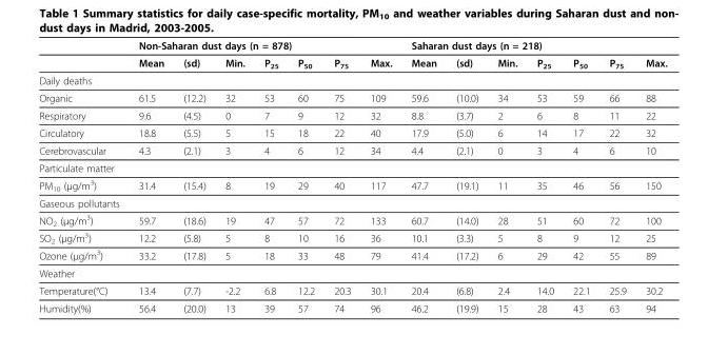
<table><thead><tr><td rowspan="2"></td><td colspan="7">Non-Saharan dust days (n = 878)</td><td colspan="7">Saharan dust days (n = 218)</td></tr><tr><td>Mean</td><td>(sd)</td><td>Min.</td><td>P<sub>25</sub></td><td>P<sub>50</sub></td><td>P<sub>75</sub></td><td>Max.</td><td>Mean</td><td>(sd)</td><td>Min.</td><td>P<sub>25</sub></td><td>P<sub>50</sub></td><td>P<sub>75</sub></td><td>Max.</td></tr></thead><tbody><tr><td colspan="15">Daily deaths</td></tr><tr><td>Organic</td><td>61.5</td><td>(12.2)</td><td>32</td><td>53</td><td>60</td><td>75</td><td>109</td><td>59.6</td><td>(10.0)</td><td>34</td><td>53</td><td>59</td><td>66</td><td>88</td></tr><tr><td>Respiratory</td><td>9.6</td><td>(4.5)</td><td>0</td><td>7</td><td>9</td><td>12</td><td>32</td><td>8.8</td><td>(3.7)</td><td>2</td><td>6</td><td>8</td><td>11</td><td>22</td></tr><tr><td>Circulatory</td><td>18.8</td><td>(5.5)</td><td>5</td><td>15</td><td>18</td><td>22</td><td>40</td><td>17.9</td><td>(5.0)</td><td>6</td><td>14</td><td>17</td><td>22</td><td>32</td></tr><tr><td>Cerebrovascular</td><td>4.3</td><td>(2.1)</td><td>3</td><td>4</td><td>6</td><td>12</td><td>34</td><td>4.4</td><td>(2.1)</td><td>0</td><td>3</td><td>4</td><td>6</td><td>10</td></tr><tr><td colspan="15">Particulate matter</td></tr><tr><td>PM<sub>10</sub> (μg/m<sup>3</sup>)</td><td>31.4</td><td>(15.4)</td><td>8</td><td>19</td><td>29</td><td>40</td><td>117</td><td>47.7</td><td>(19.1)</td><td>11</td><td>35</td><td>46</td><td>56</td><td>150</td></tr><tr><td colspan="15">Gaseous pollutants</td></tr><tr><td>NO<sub>2</sub> (μg/m<sup>3</sup>)</td><td>59.7</td><td>(18.6)</td><td>19</td><td>47</td><td>57</td><td>72</td><td>133</td><td>60.7</td><td>(14.0)</td><td>28</td><td>51</td><td>60</td><td>72</td><td>100</td></tr><tr><td>SO<sub>2</sub> (μg/m<sup>3</sup>)</td><td>12.2</td><td>(5.8)</td><td>5</td><td>8</td><td>10</td><td>16</td><td>36</td><td>10.1</td><td>(3.3)</td><td>5</td><td>8</td><td>9</td><td>12</td><td>25</td></tr><tr><td>Ozone (μg/m<sup>3</sup>)</td><td>33.2</td><td>(17.8)</td><td>5</td><td>18</td><td>33</td><td>48</td><td>79</td><td>41.4</td><td>(17.2)</td><td>6</td><td>29</td><td>42</td><td>55</td><td>89</td></tr><tr><td colspan="15">Weather</td></tr><tr><td>Temperature(°C)</td><td>13.4</td><td>(7.7)</td><td>-2.2</td><td>6.8</td><td>12.2</td><td>20.3</td><td>30.1</td><td>20.4</td><td>(6.8)</td><td>2.4</td><td>14.0</td><td>22.1</td><td>25.9</td><td>30.2</td></tr><tr><td>Humidity(%)</td><td>56.4</td><td>(20.0)</td><td>13</td><td>39</td><td>57</td><td>74</td><td>96</td><td>46.2</td><td>(19.9)</td><td>15</td><td>28</td><td>43</td><td>63</td><td>94</td></tr></tbody></table>